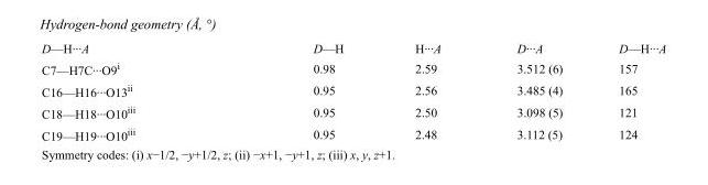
<table><tbody><tr><td>D—H···A</td><td>D—H</td><td>H···A</td><td>D···A</td><td>D—H···A</td></tr><tr><td>C7—H7C···O9<sup>i</sup></td><td>0.98</td><td>2.59</td><td>3.512 (6)</td><td>157</td></tr><tr><td>C16—H16···O13<sup>ii</sup></td><td>0.95</td><td>2.56</td><td>3.485 (4)</td><td>165</td></tr><tr><td>C18—H18···O10<sup>iii</sup></td><td>0.95</td><td>2.50</td><td>3.098 (5)</td><td>121</td></tr><tr><td>C19—H19···O10<sup>iii</sup></td><td>0.95</td><td>2.48</td><td>3.112 (5)</td><td>124</td></tr></tbody></table>